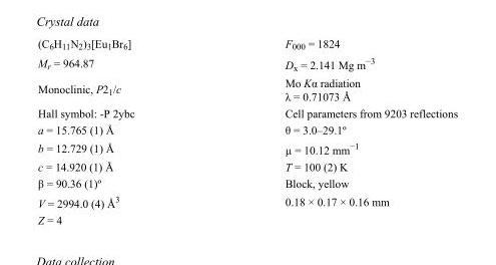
<table><tbody><tr><td>(C<sub>6</sub>H<sub>11</sub>N<sub>2</sub>)<sub>3</sub>[Eu<sub>1</sub>Br<sub>6</sub>]</td><td>F<sub>000</sub> = 1824</td></tr><tr><td>M<sub>r</sub> = 964.87</td><td>D<sub>x</sub> = 2.141 Mg m<sup>−3</sup></td></tr><tr><td>Monoclinic, P2<sub>1</sub>/c</td><td>Mo Kα radiation λ = 0.71073 Å</td></tr><tr><td>Hall symbol: -P 2ybc</td><td>Cell parameters from 9203 reflections</td></tr><tr><td>a = 15.765 (1) Å</td><td>θ = 3.0–29.1º</td></tr><tr><td>b = 12.729 (1) Å</td><td>µ = 10.12 mm<sup>−1</sup></td></tr><tr><td>c = 14.920 (1) Å</td><td>T = 100 (2) K</td></tr><tr><td>β = 90.36 (1)º</td><td>Block, yellow</td></tr><tr><td>V = 2994.0 (4) Å<sup>3</sup></td><td>0.18 × 0.17 × 0.16 mm</td></tr><tr><td>Z = 4</td><td></td></tr></tbody></table>